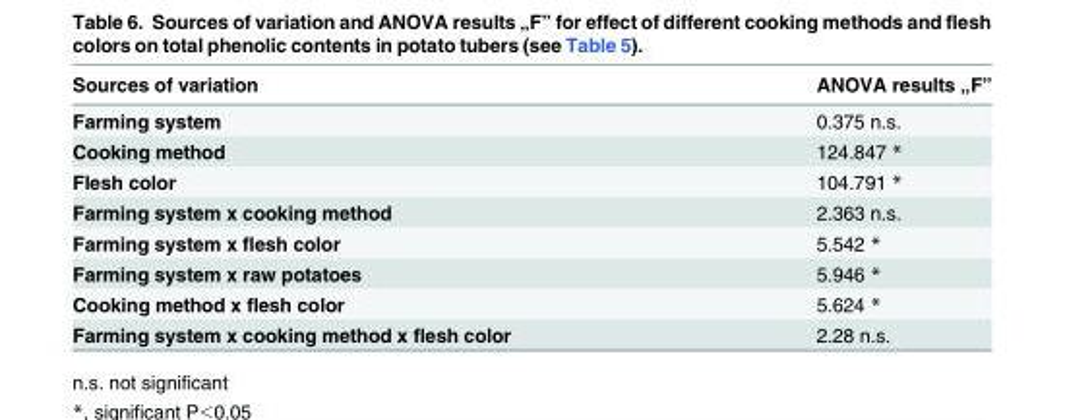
<table><thead><tr><td>Sources of variation</td><td>ANOVA results „F”</td></tr></thead><tbody><tr><td>Farming system</td><td>0.375 n.s.</td></tr><tr><td>Cooking method</td><td>124.847 *</td></tr><tr><td>Flesh color</td><td>104.791 *</td></tr><tr><td>Farming system x cooking method</td><td>2.363 n.s.</td></tr><tr><td>Farming system x flesh color</td><td>5.542 *</td></tr><tr><td>Farming system x raw potatoes</td><td>5.946 *</td></tr><tr><td>Cooking method x flesh color</td><td>5.624 *</td></tr><tr><td>Farming system x cooking method x flesh color</td><td>2.28 n.s.</td></tr></tbody></table>